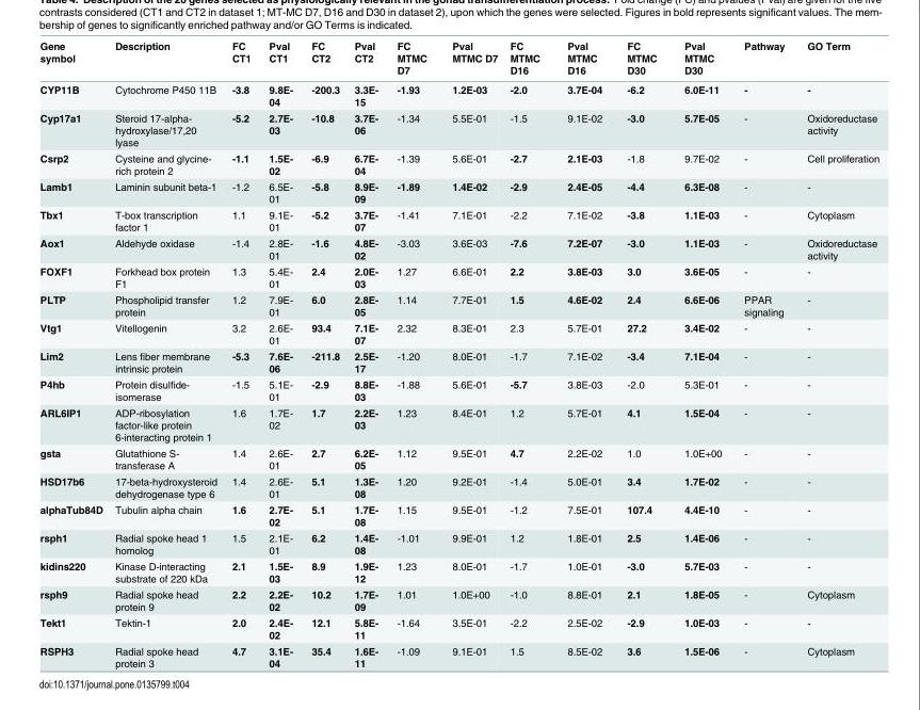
<table><thead><tr><td>Gene symbol</td><td>Description</td><td>FC CT1</td><td>Pval CT1</td><td>FC CT2</td><td>Pval CT2</td><td>FC MTMC D7</td><td>Pval MTMC D7</td><td>FC MTMC D16</td><td>Pval MTMC D16</td><td>FC MTMC D30</td><td>Pval MTMC D30</td><td>Pathway</td><td>GO Term</td></tr></thead><tbody><tr><td>CYP11B</td><td>Cytochrome P450 11B</td><td>-3.8</td><td>9.8E- 04</td><td>-200.3</td><td>3.3E- 15</td><td>-1.93</td><td>1.2E-03</td><td>-2.0</td><td>3.7E-04</td><td>-6.2</td><td>6.0E-11</td><td>-</td><td>-</td></tr><tr><td>Cyp17a1</td><td>Steroid 17-alpha- hydroxylase/17,20 lyase</td><td>-5.2</td><td>2.7E- 03</td><td>-10.8</td><td>3.7E- 06</td><td>-1.34</td><td>5.5E-01</td><td>-1.5</td><td>9.1E-02</td><td>-3.0</td><td>5.7E-05</td><td>-</td><td>Oxidoreductase activity</td></tr><tr><td>Csrp2</td><td>Cysteine and glycine- rich protein 2</td><td>-1.1</td><td>1.5E- 02</td><td>-6.9</td><td>6.7E- 04</td><td>-1.39</td><td>5.6E-01</td><td>-2.7</td><td>2.1E-03</td><td>-1.8</td><td>9.7E-02</td><td>-</td><td>Cell proliferation</td></tr><tr><td>Lamb1</td><td>Laminin subunit beta-1</td><td>-1.2</td><td>6.5E- 01</td><td>-5.8</td><td>8.9E- 09</td><td>-1.89</td><td>1.4E-02</td><td>-2.9</td><td>2.4E-05</td><td>-4.4</td><td>6.3E-08</td><td>-</td><td>-</td></tr><tr><td>Tbx1</td><td>T-box transcription factor 1</td><td>1.1</td><td>9.1E- 01</td><td>-5.2</td><td>3.7E- 07</td><td>-1.41</td><td>7.1E-01</td><td>-2.2</td><td>7.1E-02</td><td>-3.8</td><td>1.1E-03</td><td>-</td><td>Cytoplasm</td></tr><tr><td>Aox1</td><td>Aldehyde oxidase</td><td>-1.4</td><td>2.8E- 01</td><td>-1.6</td><td>4.8E- 02</td><td>-3.03</td><td>3.6E-03</td><td>-7.6</td><td>7.2E-07</td><td>-3.0</td><td>1.1E-03</td><td>-</td><td>Oxidoreductase activity</td></tr><tr><td>FOXF1</td><td>Forkhead box protein F1</td><td>1.3</td><td>5.4E- 01</td><td>2.4</td><td>2.0E- 03</td><td>1.27</td><td>6.6E-01</td><td>2.2</td><td>3.8E-03</td><td>3.0</td><td>3.6E-05</td><td>-</td><td>-</td></tr><tr><td>PLTP</td><td>Phospholipid transfer protein</td><td>1.2</td><td>7.9E- 01</td><td>6.0</td><td>2.8E- 05</td><td>1.14</td><td>7.7E-01</td><td>1.5</td><td>4.6E-02</td><td>2.4</td><td>6.6E-06</td><td>PPAR signaling</td><td>-</td></tr><tr><td>Vtg1</td><td>Vitellogenin</td><td>3.2</td><td>2.6E- 01</td><td>93.4</td><td>7.1E- 07</td><td>2.32</td><td>8.3E-01</td><td>2.3</td><td>5.7E-01</td><td>27.2</td><td>3.4E-02</td><td>-</td><td>-</td></tr><tr><td>Lim2</td><td>Lens fiber membrane intrinsic protein</td><td>-5.3</td><td>7.6E- 06</td><td>-211.8</td><td>2.5E- 17</td><td>-1.20</td><td>8.0E-01</td><td>-1.7</td><td>7.1E-02</td><td>-3.4</td><td>7.1E-04</td><td>-</td><td>-</td></tr><tr><td>P4hb</td><td>Protein disulfide- isomerase</td><td>-1.5</td><td>5.1E- 01</td><td>-2.9</td><td>8.8E- 03</td><td>-1.88</td><td>5.6E-01</td><td>-5.7</td><td>3.8E-03</td><td>-2.0</td><td>5.3E-01</td><td>-</td><td>-</td></tr><tr><td>ARL6IP1</td><td>ADP-ribosylation factor-like protein 6-interacting protein 1</td><td>1.6</td><td>1.7E- 02</td><td>1.7</td><td>2.2E- 03</td><td>1.23</td><td>8.4E-01</td><td>1.2</td><td>5.7E-01</td><td>4.1</td><td>1.5E-04</td><td>-</td><td>-</td></tr><tr><td>gsta</td><td>Glutathione S- transferase A</td><td>1.4</td><td>2.6E- 01</td><td>2.7</td><td>6.2E- 05</td><td>1.12</td><td>9.5E-01</td><td>4.7</td><td>2.2E-02</td><td>1.0</td><td>1.0E+00</td><td>-</td><td>-</td></tr><tr><td>HSD17b6</td><td>17-beta-hydroxysteroid dehydrogenase type 6</td><td>1.4</td><td>2.6E- 01</td><td>5.1</td><td>1.3E- 08</td><td>1.20</td><td>9.2E-01</td><td>-1.4</td><td>5.0E-01</td><td>3.4</td><td>1.7E-02</td><td>-</td><td>-</td></tr><tr><td>alphaTub84D</td><td>Tubulin alpha chain</td><td>1.6</td><td>2.7E- 02</td><td>5.1</td><td>1.7E- 08</td><td>1.15</td><td>9.5E-01</td><td>-1.2</td><td>7.5E-01</td><td>107.4</td><td>4.4E-10</td><td>-</td><td>-</td></tr><tr><td>rsph1</td><td>Radial spoke head 1 homolog</td><td>1.5</td><td>2.1E- 01</td><td>6.2</td><td>1.4E- 08</td><td>-1.01</td><td>9.9E-01</td><td>1.2</td><td>1.8E-01</td><td>2.5</td><td>1.4E-06</td><td>-</td><td>-</td></tr><tr><td>kidins220</td><td>Kinase D-interacting substrate of 220 kDa</td><td>2.1</td><td>1.5E- 03</td><td>8.9</td><td>1.9E- 12</td><td>1.23</td><td>8.0E-01</td><td>-1.7</td><td>1.0E-01</td><td>-3.0</td><td>5.7E-03</td><td>-</td><td>-</td></tr><tr><td>rsph9</td><td>Radial spoke head protein 9</td><td>2.2</td><td>2.2E- 02</td><td>10.2</td><td>1.7E- 09</td><td>1.01</td><td>1.0E+00</td><td>-1.0</td><td>8.8E-01</td><td>2.1</td><td>1.8E-05</td><td>-</td><td>Cytoplasm</td></tr><tr><td>Tekt1</td><td>Tektin-1</td><td>2.0</td><td>2.4E- 02</td><td>12.1</td><td>5.8E- 11</td><td>-1.64</td><td>3.5E-01</td><td>-2.2</td><td>2.5E-02</td><td>-2.9</td><td>1.0E-03</td><td>-</td><td>-</td></tr><tr><td>RSPH3</td><td>Radial spoke head protein 3</td><td>4.7</td><td>3.1E- 04</td><td>35.4</td><td>1.6E- 11</td><td>-1.09</td><td>9.1E-01</td><td>1.5</td><td>8.5E-02</td><td>3.6</td><td>1.5E-06</td><td>-</td><td>Cytoplasm</td></tr></tbody></table>